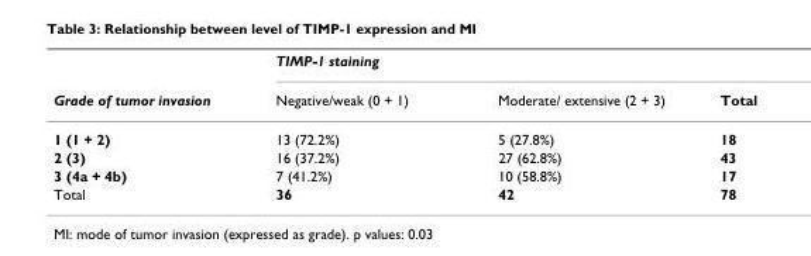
<table><thead><tr><td rowspan="2">Grade of tumor invasion</td><td colspan="3">TIMP-1 staining</td></tr><tr><td>Negative/weak (0 + 1)</td><td>Moderate/ extensive (2 + 3)</td><td>Total</td></tr></thead><tbody><tr><td>1 (1 + 2)</td><td>13 (72.2%)</td><td>5 (27.8%)</td><td>18</td></tr><tr><td>2 (3)</td><td>16 (37.2%)</td><td>27 (62.8%)</td><td>43</td></tr><tr><td>3 (4a + 4b)</td><td>7 (41.2%)</td><td>10 (58.8%)</td><td>17</td></tr><tr><td>Total</td><td>36</td><td>42</td><td>78</td></tr></tbody></table>